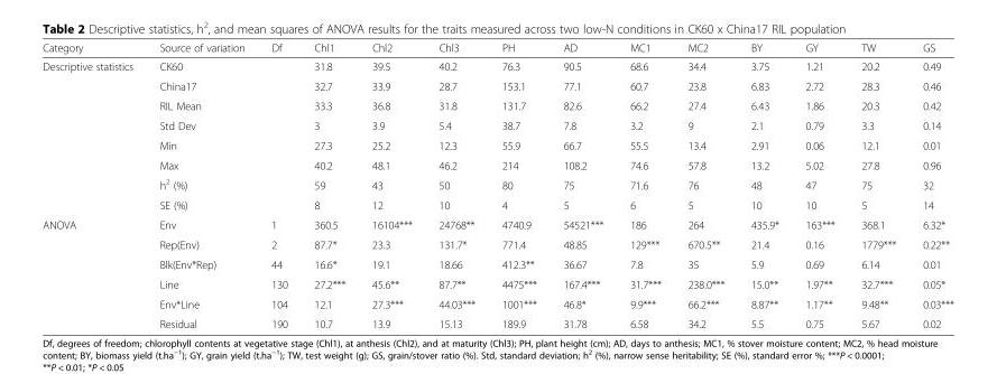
<table><thead><tr><td>Category</td><td>Source of variation</td><td>Df</td><td>Chl1</td><td>Chl2</td><td>Chl3</td><td>PH</td><td>AD</td><td>MC1</td><td>MC2</td><td>BY</td><td>GY</td><td>TW</td><td>GS</td></tr></thead><tbody><tr><td rowspan="8">Descriptive statistics</td><td>CK60</td><td></td><td>31.8</td><td>39.5</td><td>40.2</td><td>76.3</td><td>90.5</td><td>68.6</td><td>34.4</td><td>3.75</td><td>1.21</td><td>20.2</td><td>0.49</td></tr><tr><td>China17</td><td></td><td>32.7</td><td>33.9</td><td>28.7</td><td>153.1</td><td>77.1</td><td>60.7</td><td>23.8</td><td>6.83</td><td>2.72</td><td>28.3</td><td>0.46</td></tr><tr><td>RIL Mean</td><td></td><td>33.3</td><td>36.8</td><td>31.8</td><td>131.7</td><td>82.6</td><td>66.2</td><td>27.4</td><td>6.43</td><td>1.86</td><td>20.3</td><td>0.42</td></tr><tr><td>Std Dev</td><td></td><td>3</td><td>3.9</td><td>5.4</td><td>38.7</td><td>7.8</td><td>3.2</td><td>9</td><td>2.1</td><td>0.79</td><td>3.3</td><td>0.14</td></tr><tr><td>Min</td><td></td><td>27.3</td><td>25.2</td><td>12.3</td><td>55.9</td><td>66.7</td><td>55.5</td><td>13.4</td><td>2.91</td><td>0.06</td><td>12.1</td><td>0.01</td></tr><tr><td>Max</td><td></td><td>40.2</td><td>48.1</td><td>46.2</td><td>214</td><td>108.2</td><td>74.6</td><td>57.8</td><td>13.2</td><td>5.02</td><td>27.8</td><td>0.96</td></tr><tr><td>h<sup>2</sup> (%)</td><td></td><td>59</td><td>43</td><td>50</td><td>80</td><td>75</td><td>71.6</td><td>76</td><td>48</td><td>47</td><td>75</td><td>32</td></tr><tr><td>SE (%)</td><td></td><td>8</td><td>12</td><td>10</td><td>4</td><td>5</td><td>6</td><td>5</td><td>10</td><td>10</td><td>5</td><td>14</td></tr><tr><td rowspan="6">ANOVA</td><td>Env</td><td>1</td><td>360.5</td><td>16104***</td><td>24768**</td><td>4740.9</td><td>54521***</td><td>186</td><td>264</td><td>435.9*</td><td>163***</td><td>368.1</td><td>6.32*</td></tr><tr><td>Rep(Env)</td><td>2</td><td>87.7*</td><td>23.3</td><td>131.7*</td><td>771.4</td><td>48.85</td><td>129***</td><td>670.5**</td><td>21.4</td><td>0.16</td><td>1779***</td><td>0.22**</td></tr><tr><td>Blk(Env*Rep)</td><td>44</td><td>16.6*</td><td>19.1</td><td>18.66</td><td>412.3**</td><td>36.67</td><td>7.8</td><td>35</td><td>5.9</td><td>0.69</td><td>6.14</td><td>0.01</td></tr><tr><td>Line</td><td>130</td><td>27.2***</td><td>45.6**</td><td>87.7**</td><td>4475***</td><td>167.4***</td><td>31.7***</td><td>238.0***</td><td>15.0**</td><td>1.97**</td><td>32.7***</td><td>0.05*</td></tr><tr><td>Env*Line</td><td>104</td><td>12.1</td><td>27.3***</td><td>44.03***</td><td>1001***</td><td>46.8*</td><td>9.9***</td><td>66.2***</td><td>8.87**</td><td>1.17**</td><td>9.48**</td><td>0.03***</td></tr><tr><td>Residual</td><td>190</td><td>10.7</td><td>13.9</td><td>15.13</td><td>189.9</td><td>31.78</td><td>6.58</td><td>34.2</td><td>5.5</td><td>0.75</td><td>5.67</td><td>0.02</td></tr></tbody></table>